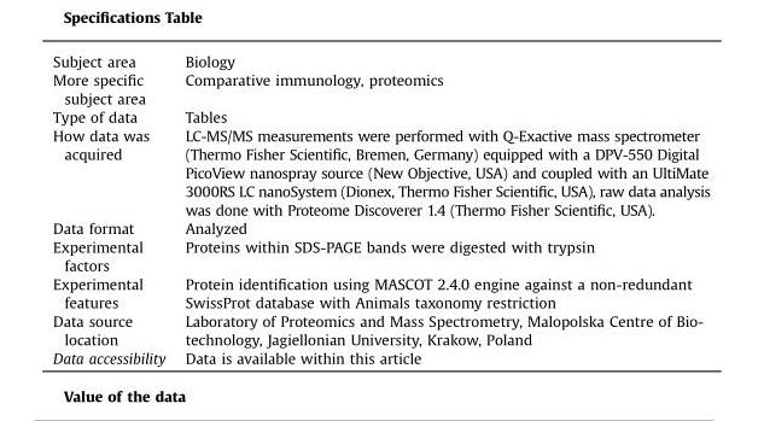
<table><tbody><tr><td>Subject area</td><td>Biology</td></tr><tr><td>More specific subject area</td><td>Comparative immunology, proteomics</td></tr><tr><td>Type of data</td><td>Tables</td></tr><tr><td>How data was acquired</td><td>LC-MS/MS measurements were performed with Q-Exactive mass spectrometer (Thermo Fisher Scientific, Bremen, Germany) equipped with a DPV-550 Digital PicoView nanospray source (New Objective, USA) and coupled with an UltiMate 3000RS LC nanoSystem (Dionex, Thermo Fisher Scientific, USA), raw data analysis was done with Proteome Discoverer 1.4 (Thermo Fisher Scientific, USA).</td></tr><tr><td>Data format</td><td>Analyzed</td></tr><tr><td>Experimental factors</td><td>Proteins within SDS-PAGE bands were digested with trypsin</td></tr><tr><td>Experimental features</td><td>Protein identification using MASCOT 2.4.0 engine against a non-redundant SwissProt database with Animals taxonomy restriction</td></tr><tr><td>Data source location</td><td>Laboratory of Proteomics and Mass Spectrometry, Malopolska Centre of Bio- technology, Jagiellonian University, Krakow, Poland</td></tr><tr><td>Data accessibility</td><td>Data is available within this article</td></tr></tbody></table>